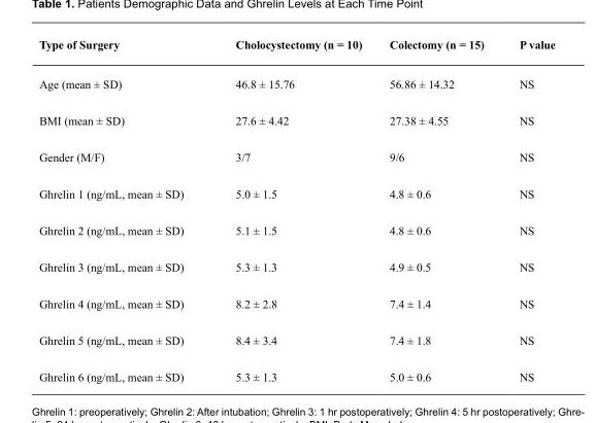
<table><thead><tr><td>Type of Surgery</td><td>Cholocystectomy (n = 10)</td><td>Colectomy (n = 15)</td><td>P value</td></tr></thead><tbody><tr><td>Age (mean ± SD)</td><td>46.8 ± 15.76</td><td>56.86 ± 14.32</td><td>NS</td></tr><tr><td>BMI (mean ± SD)</td><td>27.6 ± 4.42</td><td>27.38 ± 4.55</td><td>NS</td></tr><tr><td>Gender (M/F)</td><td>3/7</td><td>9/6</td><td>NS</td></tr><tr><td>Ghrelin 1 (ng/mL, mean ± SD)</td><td>5.0 ± 1.5</td><td>4.8 ± 0.6</td><td>NS</td></tr><tr><td>Ghrelin 2 (ng/mL, mean ± SD)</td><td>5.1 ± 1.5</td><td>4.8 ± 0.6</td><td>NS</td></tr><tr><td>Ghrelin 3 (ng/mL, mean ± SD)</td><td>5.3 ± 1.3</td><td>4.9 ± 0.5</td><td>NS</td></tr><tr><td>Ghrelin 4 (ng/mL, mean ± SD)</td><td>8.2 ± 2.8</td><td>7.4 ± 1.4</td><td>NS</td></tr><tr><td>Ghrelin 5 (ng/mL, mean ± SD)</td><td>8.4 ± 3.4</td><td>7.4 ± 1.8</td><td>NS</td></tr><tr><td>Ghrelin 6 (ng/mL, mean ± SD)</td><td>5.3 ± 1.3</td><td>5.0 ± 0.6</td><td>NS</td></tr></tbody></table>